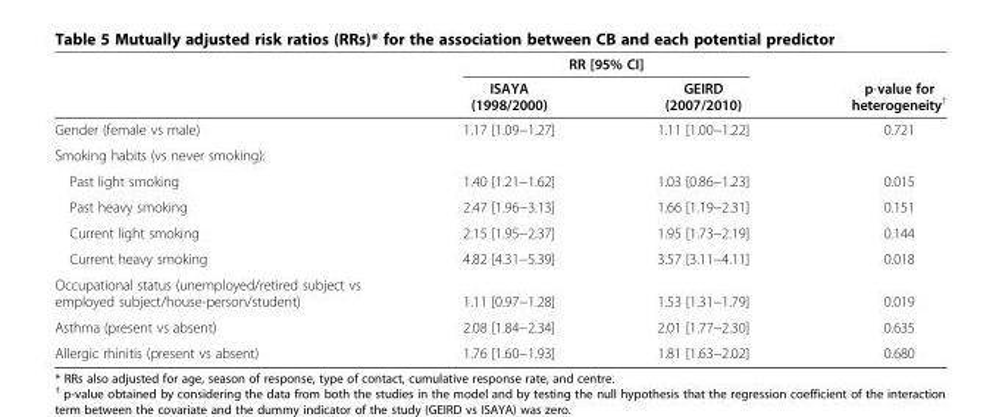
<table><thead><tr><td rowspan="2"></td><td colspan="2">RR [95% CI]</td><td rowspan="2">p-value for heterogeneity<sup>†</sup></td></tr><tr><td>ISAYA (1998/2000)</td><td>GEIRD (2007/2010)</td></tr></thead><tbody><tr><td>Gender (female vs male)</td><td>1.17 [1.09−1.27]</td><td>1.11 [1.00−1.22]</td><td>0.721</td></tr><tr><td colspan="4">Smoking habits (vs never smoking):</td></tr><tr><td>Past light smoking</td><td>1.40 [1.21−1.62]</td><td>1.03 [0.86−1.23]</td><td>0.015</td></tr><tr><td>Past heavy smoking</td><td>2.47 [1.96−3.13]</td><td>1.66 [1.19−2.31]</td><td>0.151</td></tr><tr><td>Current light smoking</td><td>2.15 [1.95−2.37]</td><td>1.95 [1.73−2.19]</td><td>0.144</td></tr><tr><td>Current heavy smoking</td><td>4.82 [4.31−5.39]</td><td>3.57 [3.11−4.11]</td><td>0.018</td></tr><tr><td>Occupational status (unemployed/retired subject vs employed subject/house-person/student)</td><td>1.11 [0.97−1.28]</td><td>1.53 [1.31−1.79]</td><td>0.019</td></tr><tr><td>Asthma (present vs absent)</td><td>2.08 [1.84−2.34]</td><td>2.01 [1.77−2.30]</td><td>0.635</td></tr><tr><td>Allergic rhinitis (present vs absent)</td><td>1.76 [1.60−1.93]</td><td>1.81 [1.63−2.02]</td><td>0.680</td></tr></tbody></table>